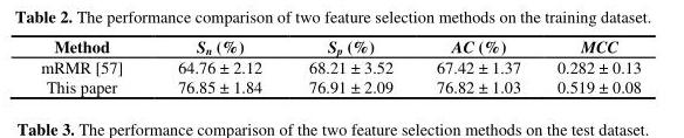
<table><thead><tr><td>Method</td><td>S<sub>n</sub> (%)</td><td>S<sub>p</sub> (%)</td><td>AC (%)</td><td>MCC</td></tr></thead><tbody><tr><td>mRMR [57]</td><td>64.76 ± 2.12</td><td>68.21 ± 3.52</td><td>67.42 ± 1.37</td><td>0.282 ± 0.13</td></tr><tr><td>This paper</td><td>76.85 ± 1.84</td><td>76.91 ± 2.09</td><td>76.82 ± 1.03</td><td>0.519 ± 0.08</td></tr></tbody></table>